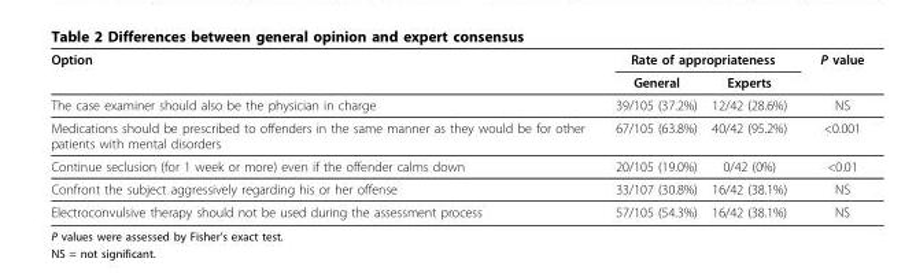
<table><thead><tr><td rowspan="2">Option</td><td colspan="2">Rate of appropriateness</td><td rowspan="2">P value</td></tr><tr><td>General</td><td>Experts</td></tr></thead><tbody><tr><td>The case examiner should also be the physician in charge</td><td>39/105 (37.2%)</td><td>12/42 (28.6%)</td><td>NS</td></tr><tr><td>Medications should be prescribed to offenders in the same manner as they would be for other patients with mental disorders</td><td>67/105 (63.8%)</td><td>40/42 (95.2%)</td><td>&lt;0.001</td></tr><tr><td>Continue seclusion (for 1 week or more) even if the offender calms down</td><td>20/105 (19.0%)</td><td>0/42 (0%)</td><td>&lt;0.01</td></tr><tr><td>Confront the subject aggressively regarding his or her offense</td><td>33/107 (30.8%)</td><td>16/42 (38.1%)</td><td>NS</td></tr><tr><td>Electroconvulsive therapy should not be used during the assessment process</td><td>57/105 (54.3%)</td><td>16/42 (38.1%)</td><td>NS</td></tr></tbody></table>